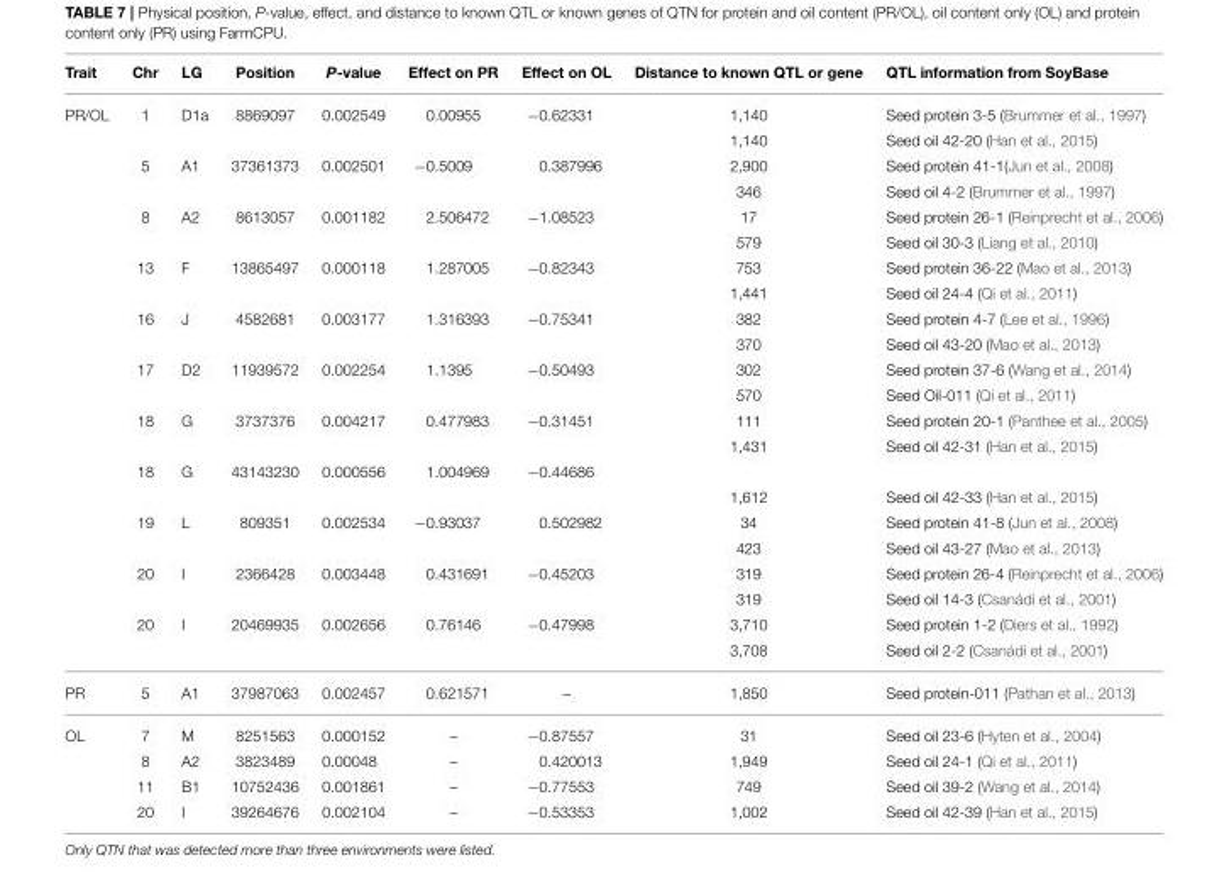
<table><thead><tr><td>Trait</td><td>Chr</td><td>LG</td><td>Position</td><td>P-value</td><td>Effect on PR</td><td>Effect on OL</td><td>Distance to known QTL or gene</td><td>QTL information from SoyBase</td></tr></thead><tbody><tr><td rowspan="22">PR/OL</td><td>1</td><td>D1a</td><td>8869097</td><td>0.002549</td><td>0.00955</td><td>−0.62331</td><td>1,140</td><td>Seed protein 3-5 (Brummer et al., 1997)</td></tr><tr><td></td><td></td><td></td><td></td><td></td><td></td><td>1,140</td><td>Seed oil 42-20 (Han et al., 2015)</td></tr><tr><td>5</td><td>A1</td><td>37361373</td><td>0.002501</td><td>−0.5009</td><td>0.387996</td><td>2,900</td><td>Seed protein 41-1(Jun et al., 2008)</td></tr><tr><td></td><td></td><td></td><td></td><td></td><td></td><td>346</td><td>Seed oil 4-2 (Brummer et al., 1997)</td></tr><tr><td>8</td><td>A2</td><td>8613057</td><td>0.001182</td><td>2.506472</td><td>−1.08523</td><td>17</td><td>Seed protein 26-1 (Reinprecht et al., 2006)</td></tr><tr><td></td><td></td><td></td><td></td><td></td><td></td><td>579</td><td>Seed oil 30-3 (Liang et al., 2010)</td></tr><tr><td>13</td><td>F</td><td>13865497</td><td>0.000118</td><td>1.287005</td><td>−0.82343</td><td>753</td><td>Seed protein 36-22 (Mao et al., 2013)</td></tr><tr><td></td><td></td><td></td><td></td><td></td><td></td><td>1,441</td><td>Seed oil 24-4 (Qi et al., 2011)</td></tr><tr><td>16</td><td>J</td><td>4582681</td><td>0.003177</td><td>1.316393</td><td>−0.75341</td><td>382</td><td>Seed protein 4-7 (Lee et al., 1996)</td></tr><tr><td></td><td></td><td></td><td></td><td></td><td></td><td>370</td><td>Seed oil 43-20 (Mao et al., 2013)</td></tr><tr><td>17</td><td>D2</td><td>11939572</td><td>0.002254</td><td>1.1395</td><td>−0.50493</td><td>302</td><td>Seed protein 37-6 (Wang et al., 2014)</td></tr><tr><td></td><td></td><td></td><td></td><td></td><td></td><td>570</td><td>Seed Oil-011 (Qi et al., 2011)</td></tr><tr><td>18</td><td>G</td><td>3737376</td><td>0.004217</td><td>0.477983</td><td>−0.31451</td><td>111</td><td>Seed protein 20-1 (Panthee et al., 2005)</td></tr><tr><td></td><td></td><td></td><td></td><td></td><td></td><td>1,431</td><td>Seed oil 42-31 (Han et al., 2015)</td></tr><tr><td>18</td><td>G</td><td>43143230</td><td>0.000556</td><td>1.004969</td><td>−0.44686</td><td></td><td></td></tr><tr><td></td><td></td><td></td><td></td><td></td><td></td><td>1,612</td><td>Seed oil 42-33 (Han et al., 2015)</td></tr><tr><td>19</td><td>L</td><td>809351</td><td>0.002534</td><td>−0.93037</td><td>0.502982</td><td>34</td><td>Seed protein 41-8 (Jun et al., 2008)</td></tr><tr><td></td><td></td><td></td><td></td><td></td><td></td><td>423</td><td>Seed oil 43-27 (Mao et al., 2013)</td></tr><tr><td>20</td><td>I</td><td>2366428</td><td>0.003448</td><td>0.431691</td><td>−0.45203</td><td>319</td><td>Seed protein 26-4 (Reinprecht et al., 2006)</td></tr><tr><td></td><td></td><td></td><td></td><td></td><td></td><td>319</td><td>Seed oil 14-3 (Csanádi et al., 2001)</td></tr><tr><td>20</td><td>I</td><td>20469935</td><td>0.002656</td><td>0.76146</td><td>−0.47998</td><td>3,710</td><td>Seed protein 1-2 (Diers et al., 1992)</td></tr><tr><td></td><td></td><td></td><td></td><td></td><td></td><td>3,708</td><td>Seed oil 2-2 (Csanádi et al., 2001)</td></tr><tr><td>PR</td><td>5</td><td>A1</td><td>37987063</td><td>0.002457</td><td>0.621571</td><td>–</td><td>1,850</td><td>Seed protein-011 (Pathan et al., 2013)</td></tr><tr><td rowspan="4">OL</td><td>7</td><td>M</td><td>8251563</td><td>0.000152</td><td>–</td><td>−0.87557</td><td>31</td><td>Seed oil 23-6 (Hyten et al., 2004)</td></tr><tr><td>8</td><td>A2</td><td>3823489</td><td>0.00048</td><td>–</td><td>0.420013</td><td>1,949</td><td>Seed oil 24-1 (Qi et al., 2011)</td></tr><tr><td>11</td><td>B1</td><td>10752436</td><td>0.001861</td><td>–</td><td>−0.77553</td><td>749</td><td>Seed oil 39-2 (Wang et al., 2014)</td></tr><tr><td>20</td><td>I</td><td>39264676</td><td>0.002104</td><td>–</td><td>−0.53353</td><td>1,002</td><td>Seed oil 42-39 (Han et al., 2015)</td></tr></tbody></table>